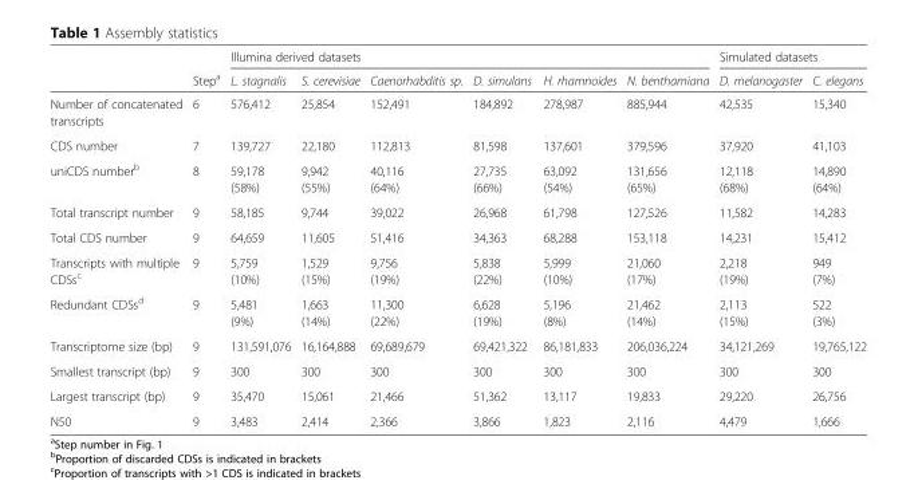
<table><thead><tr><td rowspan="2"></td><td rowspan="2">Step<sup>a</sup></td><td colspan="6">Illumina derived datasets</td><td colspan="2">Simulated datasets</td></tr><tr><td>L. stagnalis</td><td>S. cerevisiae</td><td>Caenorhabditis sp.</td><td>D. simulans</td><td>H. rhamnoides</td><td>N. benthamiana</td><td>D. melanogaster</td><td>C. elegans</td></tr></thead><tbody><tr><td>Number of concatenated transcripts</td><td>6</td><td>576,412</td><td>25,854</td><td>152,491</td><td>184,892</td><td>278,987</td><td>885,944</td><td>42,535</td><td>15,340</td></tr><tr><td>CDS number</td><td>7</td><td>139,727</td><td>22,180</td><td>112,813</td><td>81,598</td><td>137,601</td><td>379,596</td><td>37,920</td><td>41,103</td></tr><tr><td>uniCDS number<sup>b</sup></td><td>8</td><td>59,178 (58%)</td><td>9,942 (55%)</td><td>40,116 (64%)</td><td>27,735 (66%)</td><td>63,092 (54%)</td><td>131,656 (65%)</td><td>12,118 (68%)</td><td>14,890 (64%)</td></tr><tr><td>Total transcript number</td><td>9</td><td>58,185</td><td>9,744</td><td>39,022</td><td>26,968</td><td>61,798</td><td>127,526</td><td>11,582</td><td>14,283</td></tr><tr><td>Total CDS number</td><td>9</td><td>64,659</td><td>11,605</td><td>51,416</td><td>34,363</td><td>68,288</td><td>153,118</td><td>14,231</td><td>15,412</td></tr><tr><td>Transcripts with multiple CDSs<sup>c</sup></td><td>9</td><td>5,759 (10%)</td><td>1,529 (15%)</td><td>9,756 (19%)</td><td>5,838 (22%)</td><td>5,999 (10%)</td><td>21,060 (17%)</td><td>2,218 (19%)</td><td>949 (7%)</td></tr><tr><td>Redundant CDSs<sup>d</sup></td><td>9</td><td>5,481 (9%)</td><td>1,663 (14%)</td><td>11,300 (22%)</td><td>6,628 (19%)</td><td>5,196 (8%)</td><td>21,462 (14%)</td><td>2,113 (15%)</td><td>522 (3%)</td></tr><tr><td>Transcriptome size (bp)</td><td>9</td><td>131,591,076</td><td>16,164,888</td><td>69,689,679</td><td>69,421,322</td><td>86,181,833</td><td>206,036,224</td><td>34,121,269</td><td>19,765,122</td></tr><tr><td>Smallest transcript (bp)</td><td>9</td><td>300</td><td>300</td><td>300</td><td>300</td><td>300</td><td>300</td><td>300</td><td>300</td></tr><tr><td>Largest transcript (bp)</td><td>9</td><td>35,470</td><td>15,061</td><td>21,466</td><td>51,362</td><td>13,117</td><td>19,833</td><td>29,220</td><td>26,756</td></tr><tr><td>N50</td><td>9</td><td>3,483</td><td>2,414</td><td>2,366</td><td>3,866</td><td>1,823</td><td>2,116</td><td>4,479</td><td>1,666</td></tr></tbody></table>